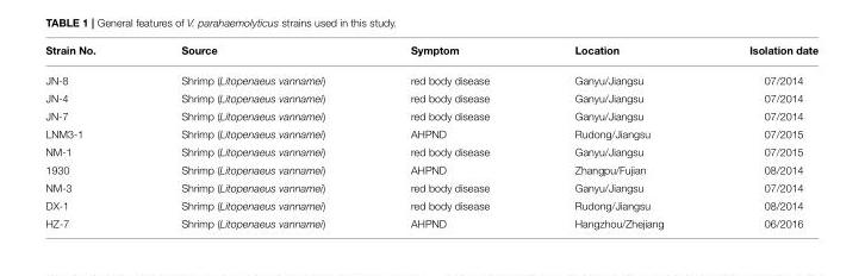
<table><thead><tr><td>Strain No.</td><td>Source</td><td>Symptom</td><td>Location</td><td>Isolation date</td></tr></thead><tbody><tr><td>JN-8</td><td>Shrimp (Litopenaeus vannamei)</td><td>red body disease</td><td>Ganyu/Jiangsu</td><td>07/2014</td></tr><tr><td>JN-4</td><td>Shrimp (Litopenaeus vannamei)</td><td>red body disease</td><td>Ganyu/Jiangsu</td><td>07/2014</td></tr><tr><td>JN-7</td><td>Shrimp (Litopenaeus vannamei)</td><td>red body disease</td><td>Ganyu/Jiangsu</td><td>07/2014</td></tr><tr><td>LNM3-1</td><td>Shrimp (Litopenaeus vannamei)</td><td>AHPND</td><td>Rudong/Jiangsu</td><td>07/2015</td></tr><tr><td>NM-1</td><td>Shrimp (Litopenaeus vannamei)</td><td>red body disease</td><td>Ganyu/Jiangsu</td><td>07/2015</td></tr><tr><td>1930</td><td>Shrimp (Litopenaeus vannamei)</td><td>AHPND</td><td>Zhangpu/Fujian</td><td>08/2014</td></tr><tr><td>NM-3</td><td>Shrimp (Litopenaeus vannamei)</td><td>red body disease</td><td>Ganyu/Jiangsu</td><td>07/2014</td></tr><tr><td>DX-1</td><td>Shrimp (Litopenaeus vannamei)</td><td>red body disease</td><td>Rudong/Jiangsu</td><td>08/2014</td></tr><tr><td>HZ-7</td><td>Shrimp (Litopenaeus vannamei)</td><td>AHPND</td><td>Hangzhou/Zhejiang</td><td>06/2016</td></tr></tbody></table>